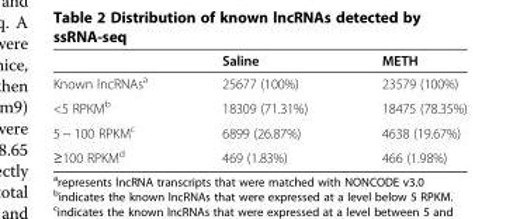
<table><thead><tr><td></td><td>Saline</td><td>METH</td></tr></thead><tbody><tr><td>Known lncRNAs<sup>a</sup></td><td>25677 (100%)</td><td>23579 (100%)</td></tr><tr><td>&lt;5 RPKM<sup>b</sup></td><td>18309 (71.31%)</td><td>18475 (78.35%)</td></tr><tr><td>5 ~ 100 RPKM<sup>c</sup></td><td>6899 (26.87%)</td><td>4638 (19.67%)</td></tr><tr><td>≥100 RPKM<sup>d</sup></td><td>469 (1.83%)</td><td>466 (1.98%)</td></tr></tbody></table>